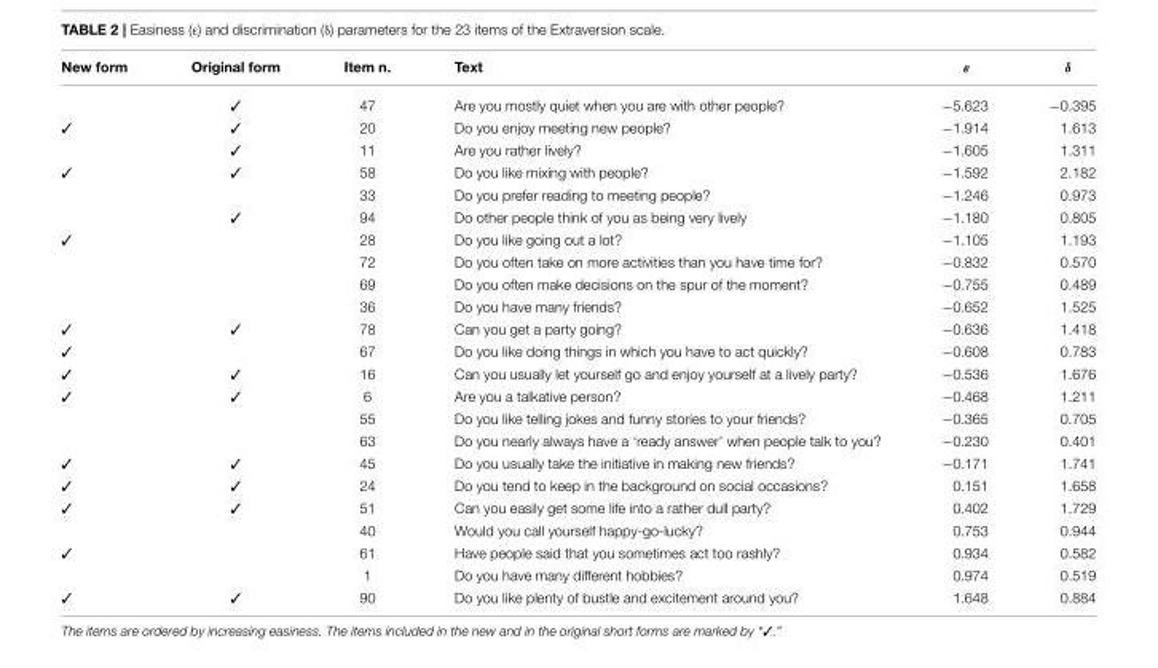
<table><thead><tr><td>New form</td><td>Original form</td><td>Item n.</td><td>Text</td><td>ε</td><td>δ</td></tr></thead><tbody><tr><td></td><td></td><td>47</td><td>Are you mostly quiet when you are with other people?</td><td>−5.623</td><td>−0.395</td></tr><tr><td rowspan="2"></td><td></td><td>20</td><td>Do you enjoy meeting new people?</td><td>−1.914</td><td>1.613</td></tr><tr><td></td><td>11</td><td>Are you rather lively?</td><td>−1.605</td><td>1.311</td></tr><tr><td rowspan="3"></td><td></td><td>58</td><td>Do you like mixing with people?</td><td>−1.592</td><td>2.182</td></tr><tr><td></td><td>33</td><td>Do you prefer reading to meeting people?</td><td>−1.246</td><td>0.973</td></tr><tr><td></td><td>94</td><td>Do other people think of you as being very lively</td><td>−1.180</td><td>0.805</td></tr><tr><td rowspan="4"></td><td></td><td>28</td><td>Do you like going out a lot?</td><td>−1.105</td><td>1.193</td></tr><tr><td></td><td>72</td><td>Do you often take on more activities than you have time for?</td><td>−0.832</td><td>0.570</td></tr><tr><td></td><td>69</td><td>Do you often make decisions on the spur of the moment?</td><td>−0.755</td><td>0.489</td></tr><tr><td></td><td>36</td><td>Do you have many friends?</td><td>−0.652</td><td>1.525</td></tr><tr><td></td><td></td><td>78</td><td>Can you get a party going?</td><td>−0.636</td><td>1.418</td></tr><tr><td></td><td></td><td>67</td><td>Do you like doing things in which you have to act quickly?</td><td>−0.608</td><td>0.783</td></tr><tr><td></td><td></td><td>16</td><td>Can you usually let yourself go and enjoy yourself at a lively party?</td><td>−0.536</td><td>1.676</td></tr><tr><td rowspan="3"></td><td></td><td>6</td><td>Are you a talkative person?</td><td>−0.468</td><td>1.211</td></tr><tr><td></td><td>55</td><td>Do you like telling jokes and funny stories to your friends?</td><td>−0.365</td><td>0.705</td></tr><tr><td></td><td>63</td><td>Do you nearly always have a ‘ready answer’ when people talk to you?</td><td>−0.230</td><td>0.401</td></tr><tr><td></td><td></td><td>45</td><td>Do you usually take the initiative in making new friends?</td><td>−0.171</td><td>1.741</td></tr><tr><td></td><td></td><td>24</td><td>Do you tend to keep in the background on social occasions?</td><td>0.151</td><td>1.658</td></tr><tr><td rowspan="2"></td><td></td><td>51</td><td>Can you easily get some life into a rather dull party?</td><td>0.402</td><td>1.729</td></tr><tr><td></td><td>40</td><td>Would you call yourself happy-go-lucky?</td><td>0.753</td><td>0.944</td></tr><tr><td rowspan="2"></td><td></td><td>61</td><td>Have people said that you sometimes act too rashly?</td><td>0.934</td><td>0.582</td></tr><tr><td></td><td>1</td><td>Do you have many different hobbies?</td><td>0.974</td><td>0.519</td></tr><tr><td></td><td></td><td>90</td><td>Do you like plenty of bustle and excitement around you?</td><td>1.648</td><td>0.884</td></tr></tbody></table>